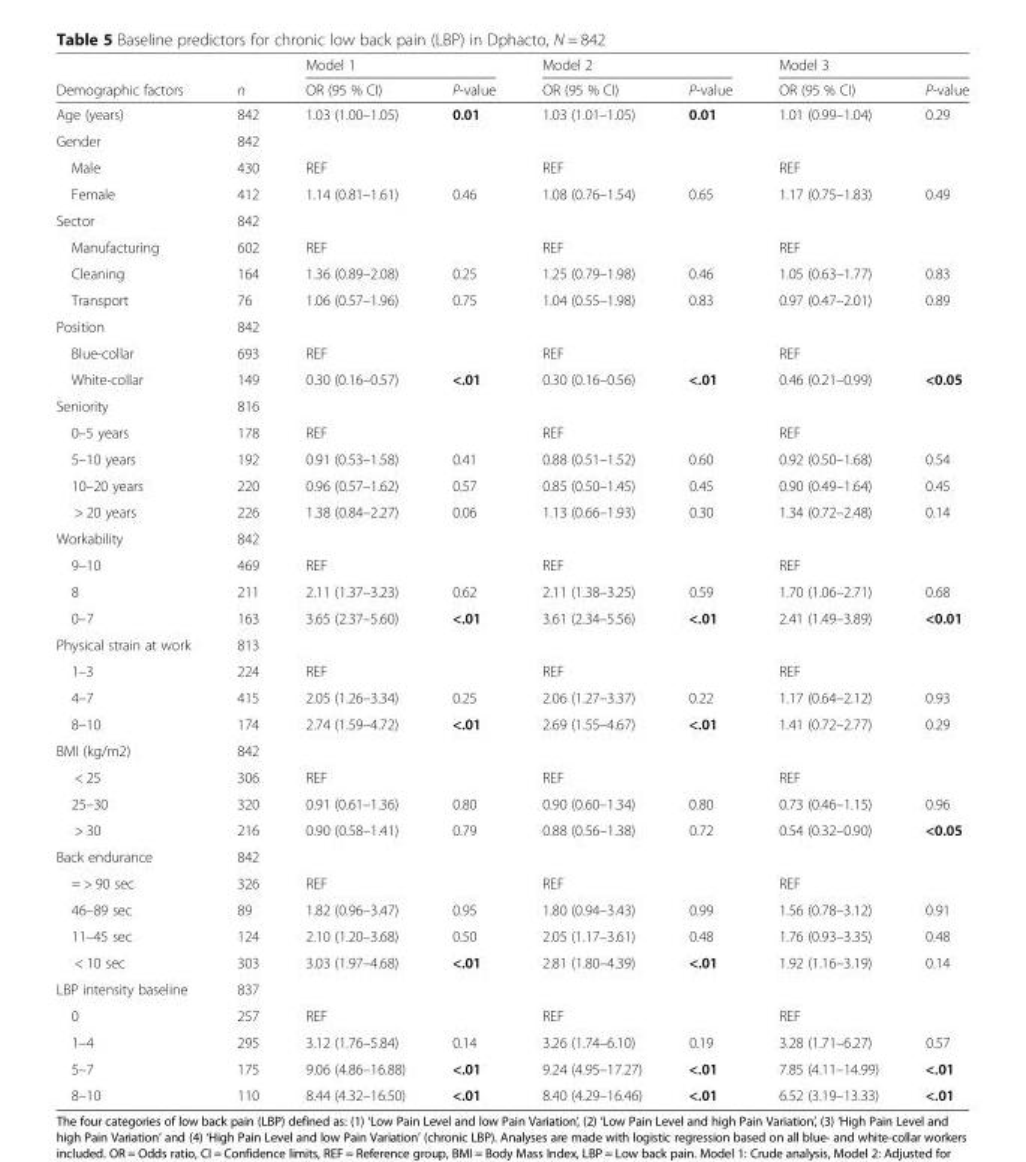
<table><thead><tr><td rowspan="2">Demographic factors</td><td rowspan="2">n</td><td colspan="2">Model 1</td><td colspan="2">Model 2</td><td colspan="2">Model 3</td></tr><tr><td>OR (95 % CI)</td><td>P-value</td><td>OR (95 % CI)</td><td>P-value</td><td>OR (95 % CI)</td><td>P-value</td></tr></thead><tbody><tr><td>Age (years)</td><td>842</td><td>1.03 (1.00–1.05)</td><td>0.01</td><td>1.03 (1.01–1.05)</td><td>0.01</td><td>1.01 (0.99–1.04)</td><td>0.29</td></tr><tr><td>Gender</td><td>842</td><td></td><td></td><td></td><td></td><td></td><td></td></tr><tr><td>Male</td><td>430</td><td>REF</td><td></td><td>REF</td><td></td><td>REF</td><td></td></tr><tr><td>Female</td><td>412</td><td>1.14 (0.81–1.61)</td><td>0.46</td><td>1.08 (0.76–1.54)</td><td>0.65</td><td>1.17 (0.75–1.83)</td><td>0.49</td></tr><tr><td>Sector</td><td>842</td><td></td><td></td><td></td><td></td><td></td><td></td></tr><tr><td>Manufacturing</td><td>602</td><td>REF</td><td></td><td>REF</td><td></td><td>REF</td><td></td></tr><tr><td>Cleaning</td><td>164</td><td>1.36 (0.89–2.08)</td><td>0.25</td><td>1.25 (0.79–1.98)</td><td>0.46</td><td>1.05 (0.63–1.77)</td><td>0.83</td></tr><tr><td>Transport</td><td>76</td><td>1.06 (0.57–1.96)</td><td>0.75</td><td>1.04 (0.55–1.98)</td><td>0.83</td><td>0.97 (0.47–2.01)</td><td>0.89</td></tr><tr><td>Position</td><td>842</td><td></td><td></td><td></td><td></td><td></td><td></td></tr><tr><td>Blue-collar</td><td>693</td><td>REF</td><td></td><td>REF</td><td></td><td>REF</td><td></td></tr><tr><td>White-collar</td><td>149</td><td>0.30 (0.16–0.57)</td><td>&lt;.01</td><td>0.30 (0.16–0.56)</td><td>&lt;.01</td><td>0.46 (0.21–0.99)</td><td>&lt;0.05</td></tr><tr><td>Seniority</td><td>816</td><td></td><td></td><td></td><td></td><td></td><td></td></tr><tr><td>0–5 years</td><td>178</td><td>REF</td><td></td><td>REF</td><td></td><td>REF</td><td></td></tr><tr><td>5–10 years</td><td>192</td><td>0.91 (0.53–1.58)</td><td>0.41</td><td>0.88 (0.51–1.52)</td><td>0.60</td><td>0.92 (0.50–1.68)</td><td>0.54</td></tr><tr><td>10–20 years</td><td>220</td><td>0.96 (0.57–1.62)</td><td>0.57</td><td>0.85 (0.50–1.45)</td><td>0.45</td><td>0.90 (0.49–1.64)</td><td>0.45</td></tr><tr><td>&gt; 20 years</td><td>226</td><td>1.38 (0.84–2.27)</td><td>0.06</td><td>1.13 (0.66–1.93)</td><td>0.30</td><td>1.34 (0.72–2.48)</td><td>0.14</td></tr><tr><td>Workability</td><td>842</td><td></td><td></td><td></td><td></td><td></td><td></td></tr><tr><td>9–10</td><td>469</td><td>REF</td><td></td><td>REF</td><td></td><td>REF</td><td></td></tr><tr><td>8</td><td>211</td><td>2.11 (1.37–3.23)</td><td>0.62</td><td>2.11 (1.38–3.25)</td><td>0.59</td><td>1.70 (1.06–2.71)</td><td>0.68</td></tr><tr><td>0–7</td><td>163</td><td>3.65 (2.37–5.60)</td><td>&lt;.01</td><td>3.61 (2.34–5.56)</td><td>&lt;.01</td><td>2.41 (1.49–3.89)</td><td>&lt;0.01</td></tr><tr><td>Physical strain at work</td><td>813</td><td></td><td></td><td></td><td></td><td></td><td></td></tr><tr><td>1–3</td><td>224</td><td>REF</td><td></td><td>REF</td><td></td><td>REF</td><td></td></tr><tr><td>4–7</td><td>415</td><td>2.05 (1.26–3.34)</td><td>0.25</td><td>2.06 (1.27–3.37)</td><td>0.22</td><td>1.17 (0.64–2.12)</td><td>0.93</td></tr><tr><td>8–10</td><td>174</td><td>2.74 (1.59–4.72)</td><td>&lt;.01</td><td>2.69 (1.55–4.67)</td><td>&lt;.01</td><td>1.41 (0.72–2.77)</td><td>0.29</td></tr><tr><td>BMI (kg/m2)</td><td>842</td><td></td><td></td><td></td><td></td><td></td><td></td></tr><tr><td>&lt; 25</td><td>306</td><td>REF</td><td></td><td>REF</td><td></td><td>REF</td><td></td></tr><tr><td>25–30</td><td>320</td><td>0.91 (0.61–1.36)</td><td>0.80</td><td>0.90 (0.60–1.34)</td><td>0.80</td><td>0.73 (0.46–1.15)</td><td>0.96</td></tr><tr><td>&gt; 30</td><td>216</td><td>0.90 (0.58–1.41)</td><td>0.79</td><td>0.88 (0.56–1.38)</td><td>0.72</td><td>0.54 (0.32–0.90)</td><td>&lt;0.05</td></tr><tr><td>Back endurance</td><td>842</td><td></td><td></td><td></td><td></td><td></td><td></td></tr><tr><td>= &gt; 90 sec</td><td>326</td><td>REF</td><td></td><td>REF</td><td></td><td>REF</td><td></td></tr><tr><td>46–89 sec</td><td>89</td><td>1.82 (0.96–3.47)</td><td>0.95</td><td>1.80 (0.94–3.43)</td><td>0.99</td><td>1.56 (0.78–3.12)</td><td>0.91</td></tr><tr><td>11–45 sec</td><td>124</td><td>2.10 (1.20–3.68)</td><td>0.50</td><td>2.05 (1.17–3.61)</td><td>0.48</td><td>1.76 (0.93–3.35)</td><td>0.48</td></tr><tr><td>&lt; 10 sec</td><td>303</td><td>3.03 (1.97–4.68)</td><td>&lt;.01</td><td>2.81 (1.80–4.39)</td><td>&lt;.01</td><td>1.92 (1.16–3.19)</td><td>0.14</td></tr><tr><td>LBP intensity baseline</td><td>837</td><td></td><td></td><td></td><td></td><td></td><td></td></tr><tr><td>0</td><td>257</td><td>REF</td><td></td><td>REF</td><td></td><td>REF</td><td></td></tr><tr><td>1–4</td><td>295</td><td>3.12 (1.76–5.84)</td><td>0.14</td><td>3.26 (1.74–6.10)</td><td>0.19</td><td>3.28 (1.71–6.27)</td><td>0.57</td></tr><tr><td>5–7</td><td>175</td><td>9.06 (4.86–16.88)</td><td>&lt;.01</td><td>9.24 (4.95–17.27)</td><td>&lt;.01</td><td>7.85 (4.11–14.99)</td><td>&lt;.01</td></tr><tr><td>8–10</td><td>110</td><td>8.44 (4.32–16.50)</td><td>&lt;.01</td><td>8.40 (4.29–16.46)</td><td>&lt;.01</td><td>6.52 (3.19–13.33)</td><td>&lt;.01</td></tr></tbody></table>